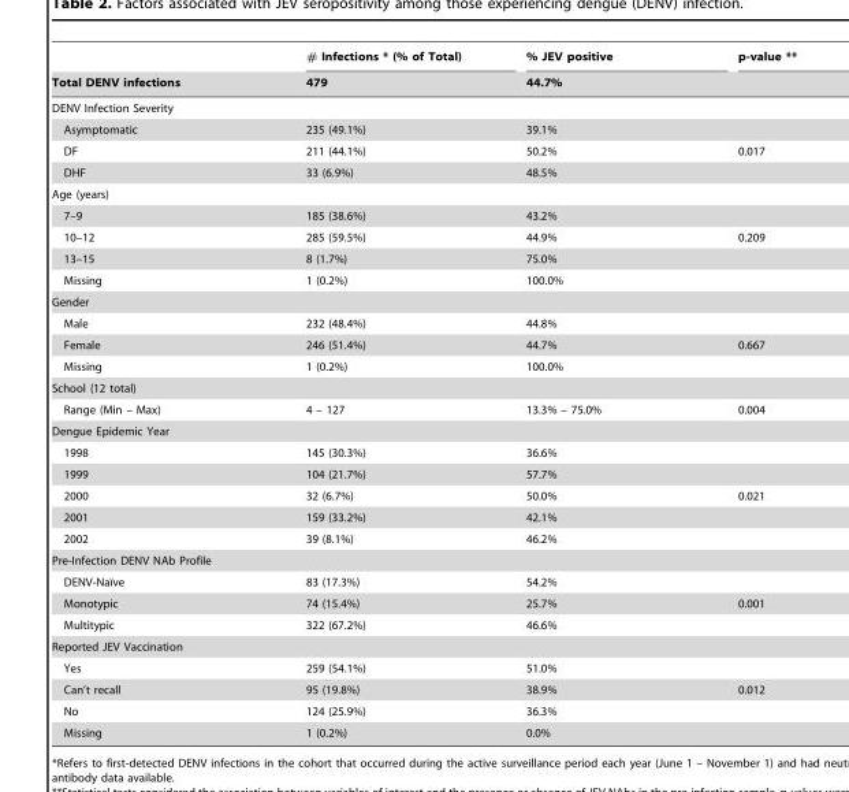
<table><thead><tr><td rowspan="2">Total DENV infections</td><td rowspan="2"># Infections * (% of Total) 479</td><td rowspan="2">% JEV positive 44.7%</td><td rowspan="2">p-value **</td></tr><tr></tr></thead><tbody><tr><td colspan="4">DENV Infection Severity</td></tr><tr><td>Asymptomatic</td><td>235 (49.1%)</td><td>39.1%</td><td></td></tr><tr><td>DF</td><td>211 (44.1%)</td><td>50.2%</td><td>0.017</td></tr><tr><td>DHF</td><td>33 (6.9%)</td><td>48.5%</td><td></td></tr><tr><td colspan="4">Age (years)</td></tr><tr><td>7–9</td><td>185 (38.6%)</td><td>43.2%</td><td></td></tr><tr><td>10–12</td><td>285 (59.5%)</td><td>44.9%</td><td>0.209</td></tr><tr><td>13–15</td><td>8 (1.7%)</td><td>75.0%</td><td></td></tr><tr><td>Missing</td><td>1 (0.2%)</td><td>100.0%</td><td></td></tr><tr><td colspan="4">Gender</td></tr><tr><td>Male</td><td>232 (48.4%)</td><td>44.8%</td><td></td></tr><tr><td>Female</td><td>246 (51.4%)</td><td>44.7%</td><td>0.667</td></tr><tr><td>Missing</td><td>1 (0.2%)</td><td>100.0%</td><td></td></tr><tr><td colspan="4">School (12 total)</td></tr><tr><td>Range (Min – Max)</td><td>4 – 127</td><td>13.3% – 75.0%</td><td>0.004</td></tr><tr><td colspan="4">Dengue Epidemic Year</td></tr><tr><td>1998</td><td>145 (30.3%)</td><td>36.6%</td><td></td></tr><tr><td>1999</td><td>104 (21.7%)</td><td>57.7%</td><td></td></tr><tr><td>2000</td><td>32 (6.7%)</td><td>50.0%</td><td>0.021</td></tr><tr><td>2001</td><td>159 (33.2%)</td><td>42.1%</td><td></td></tr><tr><td>2002</td><td>39 (8.1%)</td><td>46.2%</td><td></td></tr><tr><td colspan="4">Pre-Infection DENV NAb Profile</td></tr><tr><td>DENV-Naı¨ve</td><td>83 (17.3%)</td><td>54.2%</td><td></td></tr><tr><td>Monotypic</td><td>74 (15.4%)</td><td>25.7%</td><td>0.001</td></tr><tr><td>Multitypic</td><td>322 (67.2%)</td><td>46.6%</td><td></td></tr><tr><td colspan="4">Reported JEV Vaccination</td></tr><tr><td>Yes</td><td>259 (54.1%)</td><td>51.0%</td><td></td></tr><tr><td>Can’t recall</td><td>95 (19.8%)</td><td>38.9%</td><td>0.012</td></tr><tr><td>No</td><td>124 (25.9%)</td><td>36.3%</td><td></td></tr><tr><td>Missing</td><td>1 (0.2%)</td><td>0.0%</td><td></td></tr></tbody></table>